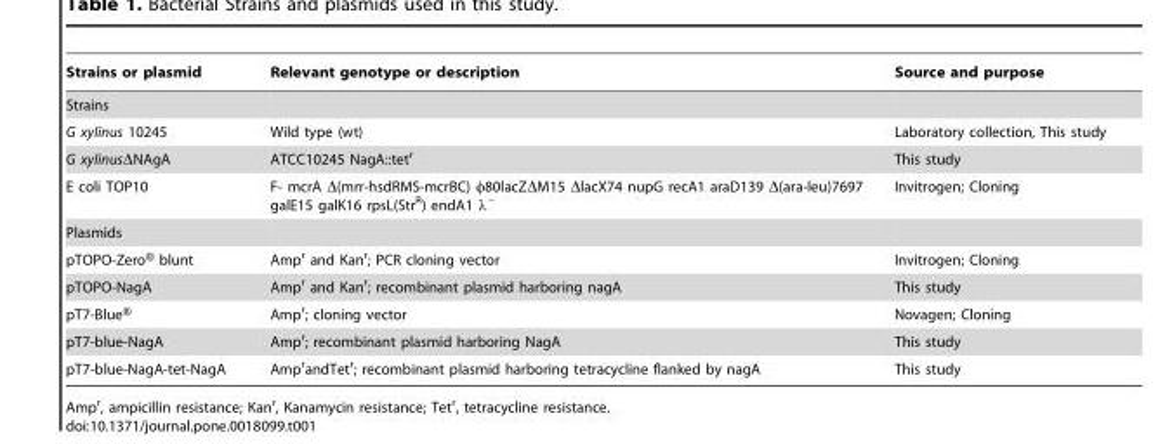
<table><thead><tr><td>Strains or plasmid</td><td>Relevant genotype or description</td><td>Source and purpose</td></tr></thead><tbody><tr><td colspan="3">Strains</td></tr><tr><td>G xylinus 10245</td><td>Wild type (wt)</td><td>Laboratory collection, This study</td></tr><tr><td>G xylinusΔNAgA</td><td>ATCC10245 NagA::tet<sup>r</sup></td><td>This study</td></tr><tr><td>E coli TOP10</td><td>F- mcrA Δ(mrr-hsdRMS-mcrBC) φ80lacZΔM15 ΔlacX74 nupG recA1 araD139 Δ(ara-leu)7697 galE15 galK16 rpsL(Str<sup>R</sup>) endA1 λ<sup>−</sup></td><td>Invitrogen; Cloning</td></tr><tr><td colspan="3">Plasmids</td></tr><tr><td>pTOPO-Zero® blunt</td><td>Amp<sup>r</sup> and Kan<sup>r</sup>; PCR cloning vector</td><td>Invitrogen; Cloning</td></tr><tr><td>pTOPO-NagA</td><td>Amp<sup>r</sup> and Kan<sup>r</sup>; recombinant plasmid harboring nagA</td><td>This study</td></tr><tr><td>pT7-Blue®</td><td>Amp<sup>r</sup>; cloning vector</td><td>Novagen; Cloning</td></tr><tr><td>pT7-blue-NagA</td><td>Amp<sup>r</sup>; recombinant plasmid harboring NagA</td><td>This study</td></tr><tr><td>pT7-blue-NagA-tet-NagA</td><td>Amp<sup>r</sup>andTet<sup>r</sup>; recombinant plasmid harboring tetracycline flanked by nagA</td><td>This study</td></tr></tbody></table>